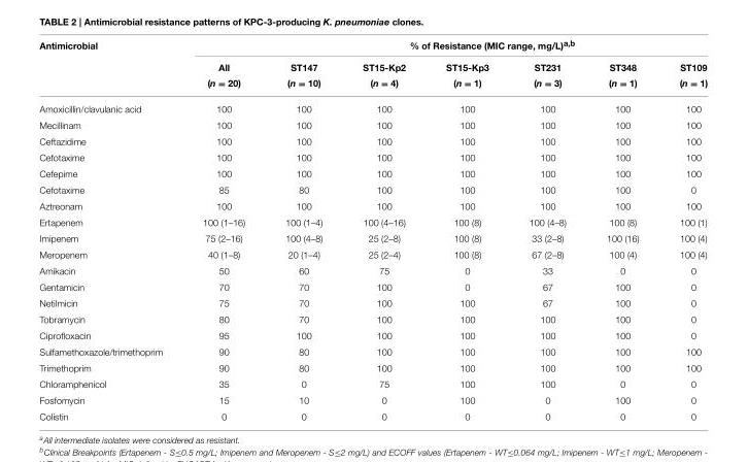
<table><thead><tr><td rowspan="3">Antimicrobial</td><td rowspan="3">All (n = 20)</td><td colspan="6">% of Resistance (MIC range, mg/L)<sup>a</sup>,<sup>b</sup></td></tr><tr><td rowspan="2">ST147 (n = 10)</td><td rowspan="2">ST15-Kp2 (n = 4)</td><td rowspan="2">ST15-Kp3 (n = 1)</td><td rowspan="2">ST231 (n = 3)</td><td rowspan="2">ST348 (n = 1)</td><td rowspan="2">ST109 (n = 1)</td></tr><tr></tr></thead><tbody><tr><td>Amoxicillin/clavulanic acid</td><td>100</td><td>100</td><td>100</td><td>100</td><td>100</td><td>100</td><td>100</td></tr><tr><td>Mecillinam</td><td>100</td><td>100</td><td>100</td><td>100</td><td>100</td><td>100</td><td>100</td></tr><tr><td>Ceftazidime</td><td>100</td><td>100</td><td>100</td><td>100</td><td>100</td><td>100</td><td>100</td></tr><tr><td>Cefotaxime</td><td>100</td><td>100</td><td>100</td><td>100</td><td>100</td><td>100</td><td>100</td></tr><tr><td>Cefepime</td><td>100</td><td>100</td><td>100</td><td>100</td><td>100</td><td>100</td><td>100</td></tr><tr><td>Cefotaxime</td><td>85</td><td>80</td><td>100</td><td>100</td><td>100</td><td>100</td><td>0</td></tr><tr><td>Aztreonam</td><td>100</td><td>100</td><td>100</td><td>100</td><td>100</td><td>100</td><td>100</td></tr><tr><td>Ertapenem</td><td>100 (1–16)</td><td>100 (1–4)</td><td>100 (4–16)</td><td>100 (8)</td><td>100 (4–8)</td><td>100 (8)</td><td>100 (1)</td></tr><tr><td>Imipenem</td><td>75 (2–16)</td><td>100 (4–8)</td><td>25 (2–8)</td><td>100 (8)</td><td>33 (2–8)</td><td>100 (16)</td><td>100 (4)</td></tr><tr><td>Meropenem</td><td>40 (1–8)</td><td>20 (1–4)</td><td>25 (2–4)</td><td>100 (8)</td><td>67 (2–8)</td><td>100 (4)</td><td>100 (4)</td></tr><tr><td>Amikacin</td><td>50</td><td>60</td><td>75</td><td>0</td><td>33</td><td>0</td><td>0</td></tr><tr><td>Gentamicin</td><td>70</td><td>70</td><td>100</td><td>0</td><td>67</td><td>100</td><td>0</td></tr><tr><td>Netilmicin</td><td>75</td><td>70</td><td>100</td><td>100</td><td>67</td><td>100</td><td>0</td></tr><tr><td>Tobramycin</td><td>80</td><td>70</td><td>100</td><td>100</td><td>100</td><td>100</td><td>0</td></tr><tr><td>Ciprofloxacin</td><td>95</td><td>100</td><td>100</td><td>100</td><td>100</td><td>100</td><td>0</td></tr><tr><td>Sulfamethoxazole/trimethoprim</td><td>90</td><td>80</td><td>100</td><td>100</td><td>100</td><td>100</td><td>100</td></tr><tr><td>Trimethoprim</td><td>90</td><td>80</td><td>100</td><td>100</td><td>100</td><td>100</td><td>100</td></tr><tr><td>Chloramphenicol</td><td>35</td><td>0</td><td>75</td><td>100</td><td>100</td><td>0</td><td>0</td></tr><tr><td>Fosfomycin</td><td>15</td><td>10</td><td>0</td><td>100</td><td>0</td><td>100</td><td>0</td></tr><tr><td>Colistin</td><td>0</td><td>0</td><td>0</td><td>0</td><td>0</td><td>0</td><td>0</td></tr></tbody></table>